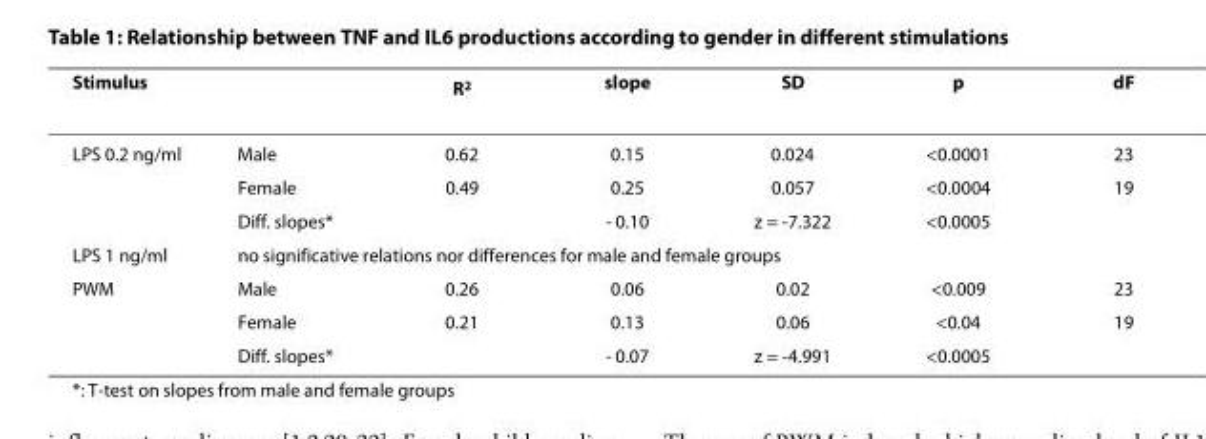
<table><thead><tr><td>Stimulus</td><td></td><td>R<sup>2</sup></td><td>slope</td><td>SD</td><td>p</td><td>dF</td></tr></thead><tbody><tr><td rowspan="3">LPS 0.2 ng/ml</td><td>Male</td><td>0.62</td><td>0.15</td><td>0.024</td><td>&lt;0.0001</td><td>23</td></tr><tr><td>Female</td><td>0.49</td><td>0.25</td><td>0.057</td><td>&lt;0.0004</td><td>19</td></tr><tr><td>Diff. slopes*</td><td></td><td>- 0.10</td><td>z = -7.322</td><td>&lt;0.0005</td><td></td></tr><tr><td>LPS 1 ng/ml</td><td colspan="6">no significative relations nor differences for male and female groups</td></tr><tr><td rowspan="3">PWM</td><td>Male</td><td>0.26</td><td>0.06</td><td>0.02</td><td>&lt;0.009</td><td>23</td></tr><tr><td>Female</td><td>0.21</td><td>0.13</td><td>0.06</td><td>&lt;0.04</td><td>19</td></tr><tr><td>Diff. slopes*</td><td></td><td>- 0.07</td><td>z = -4.991</td><td>&lt;0.0005</td><td></td></tr></tbody></table>